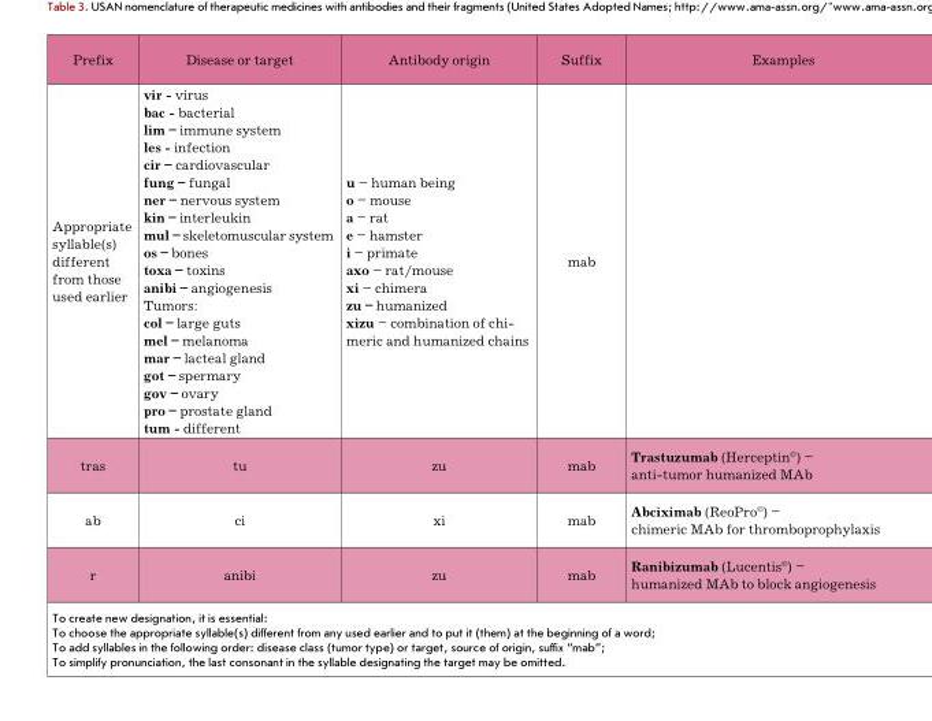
<table><thead><tr><td>Prefix</td><td>Disease or target</td><td>Antibody origin</td><td>Suffix</td><td>examples</td></tr></thead><tbody><tr><td>Appropriate syllable(s) different from those used earlier</td><td>vir - virus bac - bacterial lim – immune system les - infection cir – cardiovascular fung – fungal ner – nervous system kin – interleukin mul – skeletomuscular system os – bones toxa – toxins anibi – angiogenesis tumors: col – large guts mel – melanoma mar – lacteal gland got – spermary gov – ovary pro – prostate gland tum - different</td><td>u – human being o – mouse a – rat e – hamster i – primate axo – rat/mouse xi – chimera zu – humanized xizu – combination of chi- meric and humanized chains</td><td>mab</td><td></td></tr><tr><td>tras</td><td>tu</td><td>zu</td><td>mab</td><td>Trastuzumab (Herceptin©) – anti-tumor humanized MAb</td></tr><tr><td>ab</td><td>ci</td><td>xi</td><td>mab</td><td>Abciximab (reoPro©) – chimeric MAb for thromboprophylaxis</td></tr><tr><td>r</td><td>anibi</td><td>zu</td><td>mab</td><td>Ranibizumab (Lucentis©) – humanized MAb to block angiogenesis</td></tr><tr><td colspan="5">To create new designation, it is essential: To choose the appropriate syllable(s) different from any used earlier and to put it (them) at the beginning of a word; To add syllables in the following order: disease class (tumor type) or target, source of origin, suffix “mab”; To simplify pronunciation, the last consonant in the syllable designating the target may be omitted.</td></tr></tbody></table>